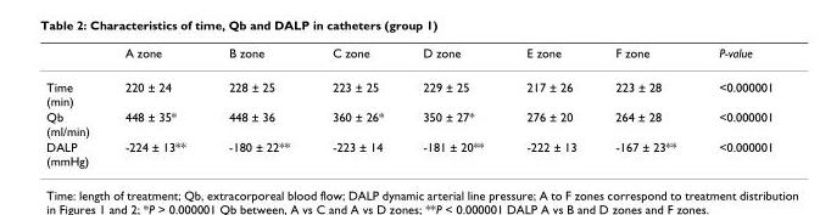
<table><thead><tr><td></td><td>A zone</td><td>B zone</td><td>C zone</td><td>D zone</td><td>E zone</td><td>F zone</td><td>P-value</td></tr></thead><tbody><tr><td>Time (min)</td><td>220 ± 24</td><td>228 ± 25</td><td>223 ± 25</td><td>229 ± 25</td><td>217 ± 26</td><td>223 ± 28</td><td>&lt;0.000001</td></tr><tr><td>Qb (ml/min)</td><td>448 ± 35*</td><td>448 ± 36</td><td>360 ± 26*</td><td>350 ± 27*</td><td>276 ± 20</td><td>264 ± 28</td><td>&lt;0.000001</td></tr><tr><td>DALP (mmHg)</td><td>-224 ± 13**</td><td>-180 ± 22**</td><td>-223 ± 14</td><td>-181 ± 20**</td><td>-222 ± 13</td><td>-167 ± 23**</td><td>&lt;0.000001</td></tr></tbody></table>